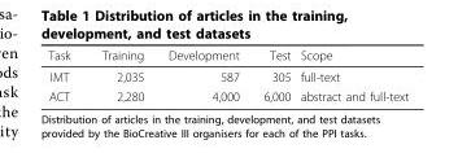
<table><thead><tr><td>Task</td><td>Training</td><td>Development</td><td>Test</td><td>Scope</td></tr></thead><tbody><tr><td>IMT</td><td>2,035</td><td>587</td><td>305</td><td>full-text</td></tr><tr><td>ACT</td><td>2,280</td><td>4,000</td><td>6,000</td><td>abstract and full-text</td></tr></tbody></table>